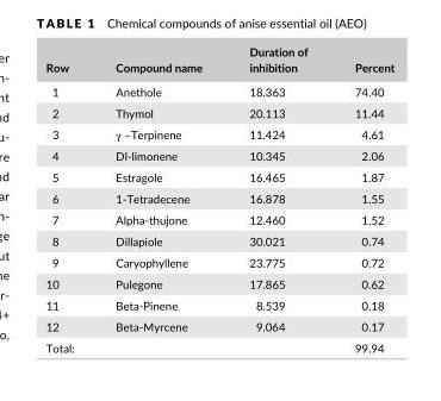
<table><thead><tr><td>Row</td><td>Compound name</td><td>Duration of inhibition</td><td>Percent</td></tr></thead><tbody><tr><td>1</td><td>Anethole</td><td>18.363</td><td>74.40</td></tr><tr><td>2</td><td>Thymol</td><td>20.113</td><td>11.44</td></tr><tr><td>3</td><td>γ –Terpinene</td><td>11.424</td><td>4.61</td></tr><tr><td>4</td><td>Dl- limonene</td><td>10.345</td><td>2.06</td></tr><tr><td>5</td><td>Estragole</td><td>16.465</td><td>1.87</td></tr><tr><td>6</td><td>1- Tetradecene</td><td>16.878</td><td>1.55</td></tr><tr><td>7</td><td>Alpha- thujone</td><td>12.460</td><td>1.52</td></tr><tr><td>8</td><td>Dillapiole</td><td>30.021</td><td>0.74</td></tr><tr><td>9</td><td>Caryophyllene</td><td>23.775</td><td>0.72</td></tr><tr><td>10</td><td>Pulegone</td><td>17.865</td><td>0.62</td></tr><tr><td>11</td><td>Beta- Pinene</td><td>8.539</td><td>0.18</td></tr><tr><td>12</td><td>Beta- Myrcene</td><td>9.064</td><td>0.17</td></tr><tr><td colspan="3">Total:</td><td>99.94</td></tr></tbody></table>